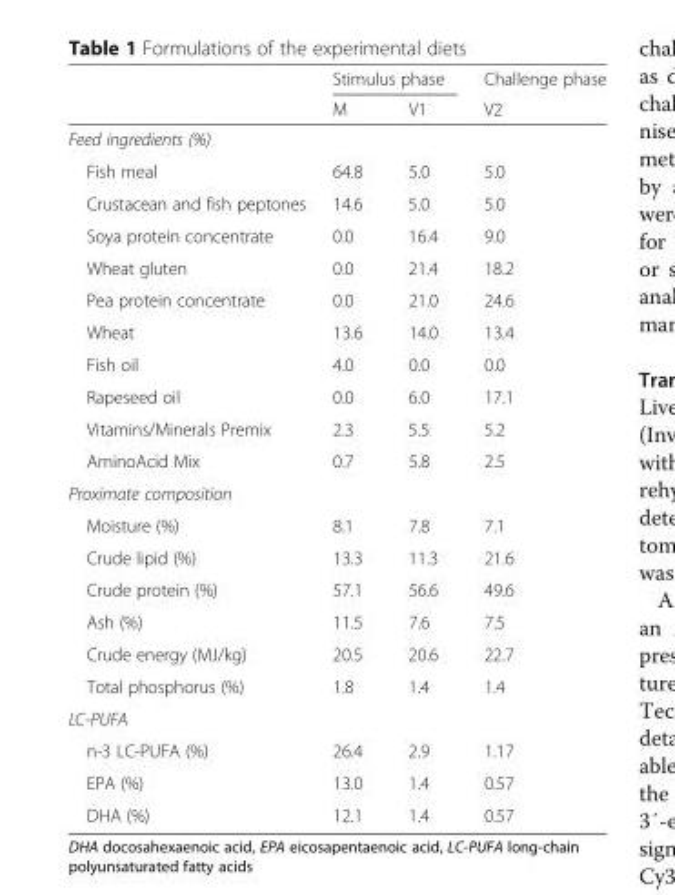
<table><thead><tr><td rowspan="2"></td><td colspan="2">Stimulus phase</td><td rowspan="2">Challenge phase V2</td></tr><tr><td>M</td><td>V1</td></tr></thead><tbody><tr><td colspan="4">Feed ingredients (%)</td></tr><tr><td>Fish meal</td><td>64.8</td><td>5.0</td><td>5.0</td></tr><tr><td>Crustacean and fish peptones</td><td>14.6</td><td>5.0</td><td>5.0</td></tr><tr><td>Soya protein concentrate</td><td>0.0</td><td>16.4</td><td>9.0</td></tr><tr><td>Wheat gluten</td><td>0.0</td><td>21.4</td><td>18.2</td></tr><tr><td>Pea protein concentrate</td><td>0.0</td><td>21.0</td><td>24.6</td></tr><tr><td>Wheat</td><td>13.6</td><td>14.0</td><td>13.4</td></tr><tr><td>Fish oil</td><td>4.0</td><td>0.0</td><td>0.0</td></tr><tr><td>Rapeseed oil</td><td>0.0</td><td>6.0</td><td>17.1</td></tr><tr><td>Vitamins/Minerals Premix</td><td>2.3</td><td>5.5</td><td>5.2</td></tr><tr><td>AminoAcid Mix</td><td>0.7</td><td>5.8</td><td>2.5</td></tr><tr><td colspan="4">Proximate composition</td></tr><tr><td>Moisture (%)</td><td>8.1</td><td>7.8</td><td>7.1</td></tr><tr><td>Crude lipid (%)</td><td>13.3</td><td>11.3</td><td>21.6</td></tr><tr><td>Crude protein (%)</td><td>57.1</td><td>56.6</td><td>49.6</td></tr><tr><td>Ash (%)</td><td>11.5</td><td>7.6</td><td>7.5</td></tr><tr><td>Crude energy (MJ/kg)</td><td>20.5</td><td>20.6</td><td>22.7</td></tr><tr><td>Total phosphorus (%)</td><td>1.8</td><td>1.4</td><td>1.4</td></tr><tr><td colspan="4">LC-PUFA</td></tr><tr><td>n-3 LC-PUFA (%)</td><td>26.4</td><td>2.9</td><td>1.17</td></tr><tr><td>EPA (%)</td><td>13.0</td><td>1.4</td><td>0.57</td></tr><tr><td>DHA (%)</td><td>12.1</td><td>1.4</td><td>0.57</td></tr></tbody></table>